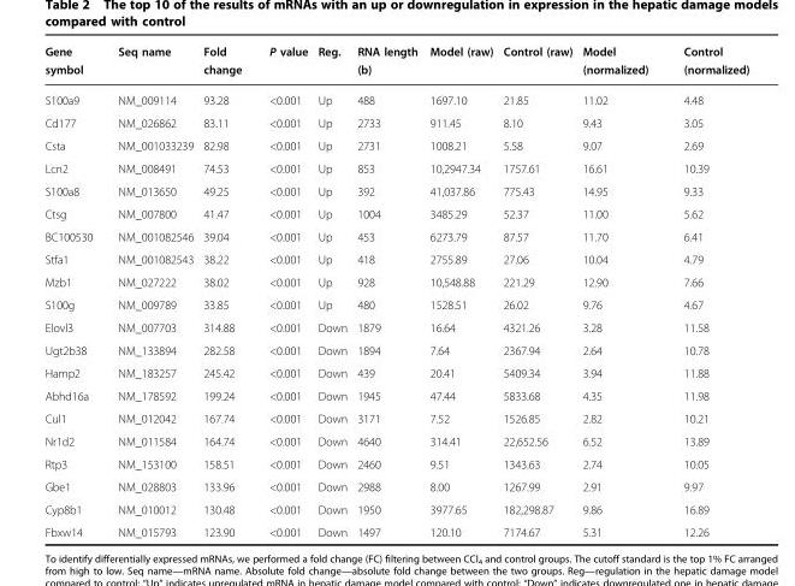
<table><thead><tr><td>Gene symbol</td><td>Seq name</td><td>Fold change</td><td>P value</td><td>Reg.</td><td>RNA length (b)</td><td>Model (raw)</td><td>Control (raw)</td><td>Model (normalized)</td><td>Control (normalized)</td></tr></thead><tbody><tr><td>S100a9</td><td>NM_009114</td><td>93.28</td><td>&lt;0.001</td><td>Up</td><td>488</td><td>1697.10</td><td>21.85</td><td>11.02</td><td>4.48</td></tr><tr><td>Cd177</td><td>NM_026862</td><td>83.11</td><td>&lt;0.001</td><td>Up</td><td>2733</td><td>911.45</td><td>8.10</td><td>9.43</td><td>3.05</td></tr><tr><td>Csta</td><td>NM_001033239</td><td>82.98</td><td>&lt;0.001</td><td>Up</td><td>2731</td><td>1008.21</td><td>5.58</td><td>9.07</td><td>2.69</td></tr><tr><td>Lcn2</td><td>NM_008491</td><td>74.53</td><td>&lt;0.001</td><td>Up</td><td>853</td><td>10,2947.34</td><td>1757.61</td><td>16.61</td><td>10.39</td></tr><tr><td>S100a8</td><td>NM_013650</td><td>49.25</td><td>&lt;0.001</td><td>Up</td><td>392</td><td>41,037.86</td><td>775.43</td><td>14.95</td><td>9.33</td></tr><tr><td>Ctsg</td><td>NM_007800</td><td>41.47</td><td>&lt;0.001</td><td>Up</td><td>1004</td><td>3485.29</td><td>52.37</td><td>11.00</td><td>5.62</td></tr><tr><td>BC100530</td><td>NM_001082546</td><td>39.04</td><td>&lt;0.001</td><td>Up</td><td>453</td><td>6273.79</td><td>87.57</td><td>11.70</td><td>6.41</td></tr><tr><td>Stfa1</td><td>NM_001082543</td><td>38.22</td><td>&lt;0.001</td><td>Up</td><td>418</td><td>2755.89</td><td>27.06</td><td>10.04</td><td>4.79</td></tr><tr><td>Mzb1</td><td>NM_027222</td><td>38.02</td><td>&lt;0.001</td><td>Up</td><td>928</td><td>10,548.88</td><td>221.29</td><td>12.90</td><td>7.66</td></tr><tr><td>S100g</td><td>NM_009789</td><td>33.85</td><td>&lt;0.001</td><td>Up</td><td>480</td><td>1528.51</td><td>26.02</td><td>9.76</td><td>4.67</td></tr><tr><td>Elovl3</td><td>NM_007703</td><td>314.88</td><td>&lt;0.001</td><td>Down</td><td>1879</td><td>16.64</td><td>4321.26</td><td>3.28</td><td>11.58</td></tr><tr><td>Ugt2b38</td><td>NM_133894</td><td>282.58</td><td>&lt;0.001</td><td>Down</td><td>1894</td><td>7.64</td><td>2367.94</td><td>2.64</td><td>10.78</td></tr><tr><td>Hamp2</td><td>NM_183257</td><td>245.42</td><td>&lt;0.001</td><td>Down</td><td>439</td><td>20.41</td><td>5409.34</td><td>3.94</td><td>11.88</td></tr><tr><td>Abhd16a</td><td>NM_178592</td><td>199.24</td><td>&lt;0.001</td><td>Down</td><td>1945</td><td>47.44</td><td>5833.68</td><td>4.35</td><td>11.98</td></tr><tr><td>Cul1</td><td>NM_012042</td><td>167.74</td><td>&lt;0.001</td><td>Down</td><td>3171</td><td>7.52</td><td>1526.85</td><td>2.82</td><td>10.21</td></tr><tr><td>Nr1d2</td><td>NM_011584</td><td>164.74</td><td>&lt;0.001</td><td>Down</td><td>4640</td><td>314.41</td><td>22,652.56</td><td>6.52</td><td>13.89</td></tr><tr><td>Rtp3</td><td>NM_153100</td><td>158.51</td><td>&lt;0.001</td><td>Down</td><td>2460</td><td>9.51</td><td>1343.63</td><td>2.74</td><td>10.05</td></tr><tr><td>Gbe1</td><td>NM_028803</td><td>133.96</td><td>&lt;0.001</td><td>Down</td><td>2988</td><td>8.00</td><td>1267.99</td><td>2.91</td><td>9.97</td></tr><tr><td>Cyp8b1</td><td>NM_010012</td><td>130.48</td><td>&lt;0.001</td><td>Down</td><td>1950</td><td>3977.65</td><td>182,298.87</td><td>9.86</td><td>16.89</td></tr><tr><td>Fbxw14</td><td>NM_015793</td><td>123.90</td><td>&lt;0.001</td><td>Down</td><td>1497</td><td>120.10</td><td>7174.67</td><td>5.31</td><td>12.26</td></tr></tbody></table>